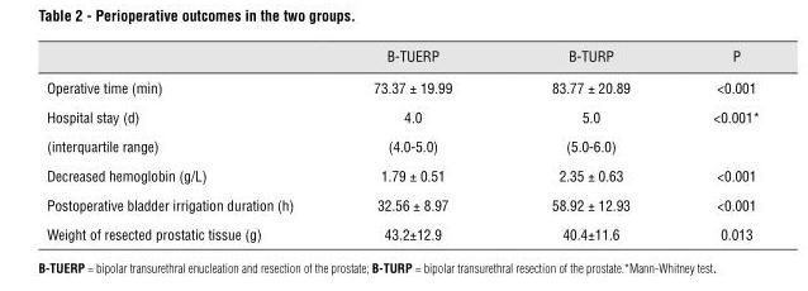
<table><thead><tr><td></td><td>B-TUERP</td><td>B-TURP</td><td>P</td></tr></thead><tbody><tr><td>Operative time (min)</td><td>73.37 ± 19.99</td><td>83.77 ± 20.89</td><td>&lt;0.001</td></tr><tr><td>Hospital stay (d)</td><td>4.0</td><td>5.0</td><td>&lt;0.001*</td></tr><tr><td>(interquartile range)</td><td>(4.0-5.0)</td><td>(5.0-6.0)</td><td></td></tr><tr><td>Decreased hemoglobin (g/L)</td><td>1.79 ± 0.51</td><td>2.35 ± 0.63</td><td>&lt;0.001</td></tr><tr><td>Postoperative bladder irrigation duration (h)</td><td>32.56 ± 8.97</td><td>58.92 ± 12.93</td><td>&lt;0.001</td></tr><tr><td>Weight of resected prostatic tissue (g)</td><td>43.2±12.9</td><td>40.4±11.6</td><td>0.013</td></tr></tbody></table>